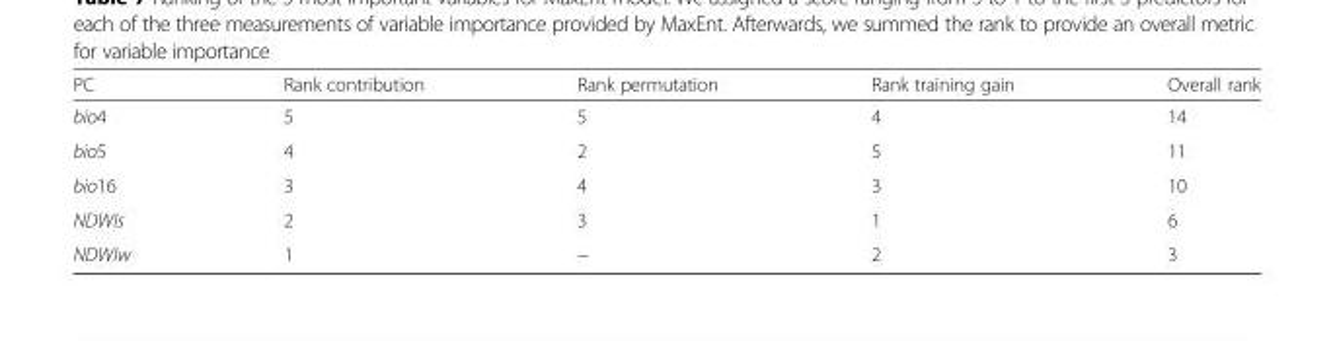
<table><thead><tr><td>PC</td><td>Rank contribution</td><td>Rank permutation</td><td>Rank training gain</td><td>Overall rank</td></tr></thead><tbody><tr><td>bio4</td><td>5</td><td>5</td><td>4</td><td>14</td></tr><tr><td>bio5</td><td>4</td><td>2</td><td>5</td><td>11</td></tr><tr><td>bio16</td><td>3</td><td>4</td><td>3</td><td>10</td></tr><tr><td>NDWIs</td><td>2</td><td>3</td><td>1</td><td>6</td></tr><tr><td>NDWIw</td><td>1</td><td>−</td><td>2</td><td>3</td></tr></tbody></table>